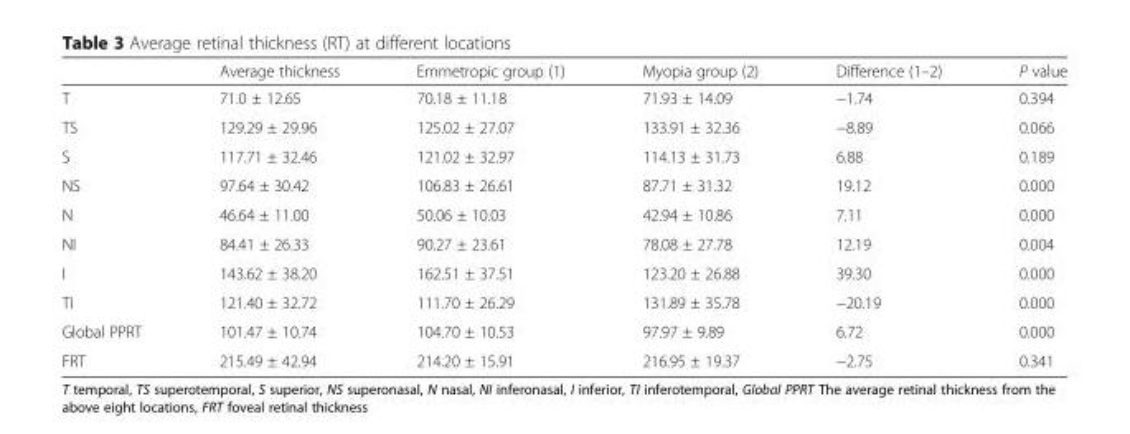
<table><thead><tr><td></td><td>Average thickness</td><td>Emmetropic group (1)</td><td>Myopia group (2)</td><td>Difference (1–2)</td><td>P value</td></tr></thead><tbody><tr><td>T</td><td>71.0 ± 12.65</td><td>70.18 ± 11.18</td><td>71.93 ± 14.09</td><td>−1.74</td><td>0.394</td></tr><tr><td>TS</td><td>129.29 ± 29.96</td><td>125.02 ± 27.07</td><td>133.91 ± 32.36</td><td>−8.89</td><td>0.066</td></tr><tr><td>S</td><td>117.71 ± 32.46</td><td>121.02 ± 32.97</td><td>114.13 ± 31.73</td><td>6.88</td><td>0.189</td></tr><tr><td>NS</td><td>97.64 ± 30.42</td><td>106.83 ± 26.61</td><td>87.71 ± 31.32</td><td>19.12</td><td>0.000</td></tr><tr><td>N</td><td>46.64 ± 11.00</td><td>50.06 ± 10.03</td><td>42.94 ± 10.86</td><td>7.11</td><td>0.000</td></tr><tr><td>NI</td><td>84.41 ± 26.33</td><td>90.27 ± 23.61</td><td>78.08 ± 27.78</td><td>12.19</td><td>0.004</td></tr><tr><td>I</td><td>143.62 ± 38.20</td><td>162.51 ± 37.51</td><td>123.20 ± 26.88</td><td>39.30</td><td>0.000</td></tr><tr><td>TI</td><td>121.40 ± 32.72</td><td>111.70 ± 26.29</td><td>131.89 ± 35.78</td><td>−20.19</td><td>0.000</td></tr><tr><td>Global PPRT</td><td>101.47 ± 10.74</td><td>104.70 ± 10.53</td><td>97.97 ± 9.89</td><td>6.72</td><td>0.000</td></tr><tr><td>FRT</td><td>215.49 ± 42.94</td><td>214.20 ± 15.91</td><td>216.95 ± 19.37</td><td>−2.75</td><td>0.341</td></tr></tbody></table>